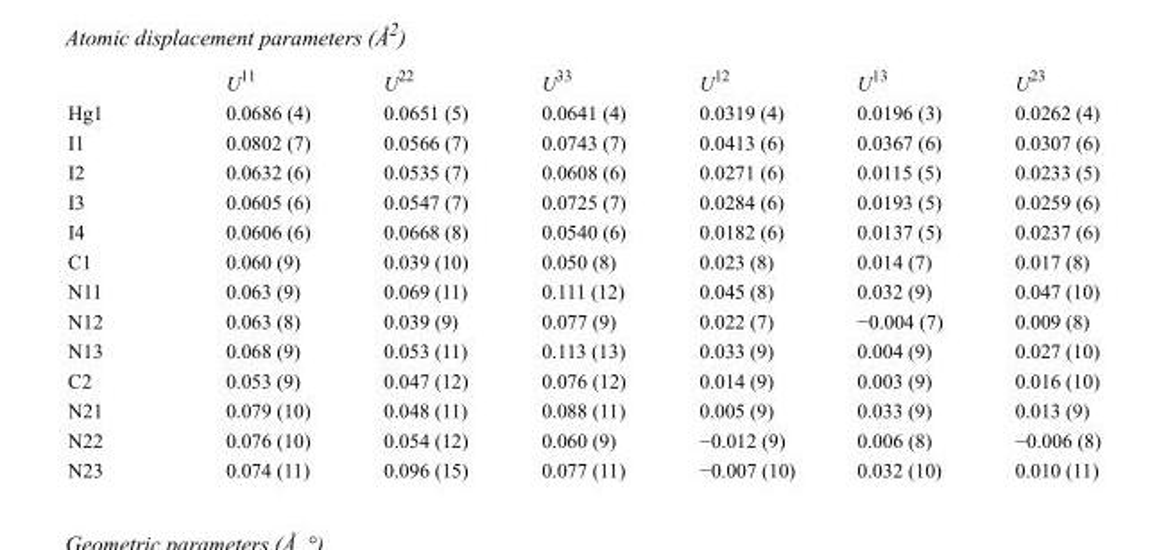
<table><thead><tr><td></td><td>U<sup>11</sup></td><td>U<sup>22</sup></td><td>U<sup>33</sup></td><td>U<sup>12</sup></td><td>U<sup>13</sup></td><td>U<sup>23</sup></td></tr></thead><tbody><tr><td>Hg1</td><td>0.0686 (4)</td><td>0.0651 (5)</td><td>0.0641 (4)</td><td>0.0319 (4)</td><td>0.0196 (3)</td><td>0.0262 (4)</td></tr><tr><td>I1</td><td>0.0802 (7)</td><td>0.0566 (7)</td><td>0.0743 (7)</td><td>0.0413 (6)</td><td>0.0367 (6)</td><td>0.0307 (6)</td></tr><tr><td>I2</td><td>0.0632 (6)</td><td>0.0535 (7)</td><td>0.0608 (6)</td><td>0.0271 (6)</td><td>0.0115 (5)</td><td>0.0233 (5)</td></tr><tr><td>I3</td><td>0.0605 (6)</td><td>0.0547 (7)</td><td>0.0725 (7)</td><td>0.0284 (6)</td><td>0.0193 (5)</td><td>0.0259 (6)</td></tr><tr><td>I4</td><td>0.0606 (6)</td><td>0.0668 (8)</td><td>0.0540 (6)</td><td>0.0182 (6)</td><td>0.0137 (5)</td><td>0.0237 (6)</td></tr><tr><td>C1</td><td>0.060 (9)</td><td>0.039 (10)</td><td>0.050 (8)</td><td>0.023 (8)</td><td>0.014 (7)</td><td>0.017 (8)</td></tr><tr><td>N11</td><td>0.063 (9)</td><td>0.069 (11)</td><td>0.111 (12)</td><td>0.045 (8)</td><td>0.032 (9)</td><td>0.047 (10)</td></tr><tr><td>N12</td><td>0.063 (8)</td><td>0.039 (9)</td><td>0.077 (9)</td><td>0.022 (7)</td><td>−0.004 (7)</td><td>0.009 (8)</td></tr><tr><td>N13</td><td>0.068 (9)</td><td>0.053 (11)</td><td>0.113 (13)</td><td>0.033 (9)</td><td>0.004 (9)</td><td>0.027 (10)</td></tr><tr><td>C2</td><td>0.053 (9)</td><td>0.047 (12)</td><td>0.076 (12)</td><td>0.014 (9)</td><td>0.003 (9)</td><td>0.016 (10)</td></tr><tr><td>N21</td><td>0.079 (10)</td><td>0.048 (11)</td><td>0.088 (11)</td><td>0.005 (9)</td><td>0.033 (9)</td><td>0.013 (9)</td></tr><tr><td>N22</td><td>0.076 (10)</td><td>0.054 (12)</td><td>0.060 (9)</td><td>−0.012 (9)</td><td>0.006 (8)</td><td>−0.006 (8)</td></tr><tr><td>N23</td><td>0.074 (11)</td><td>0.096 (15)</td><td>0.077 (11)</td><td>−0.007 (10)</td><td>0.032 (10)</td><td>0.010 (11)</td></tr></tbody></table>